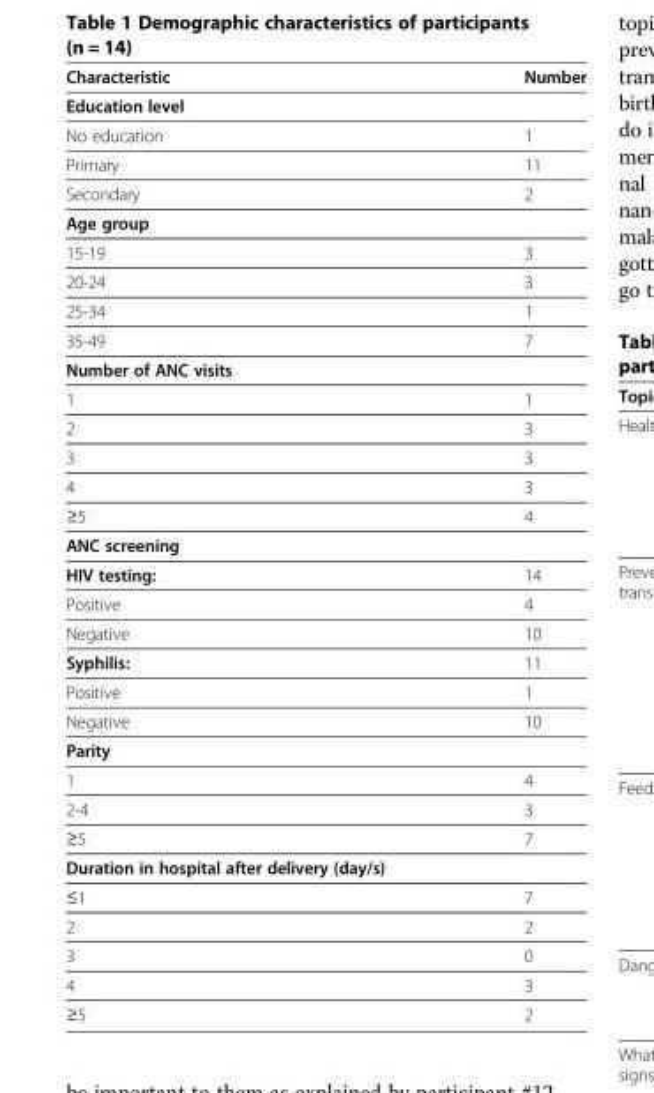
<table><thead><tr><td>Characteristic</td><td>Number</td></tr></thead><tbody><tr><td colspan="2">Education level</td></tr><tr><td>No education</td><td>1</td></tr><tr><td>Primary</td><td>11</td></tr><tr><td>Secondary</td><td>2</td></tr><tr><td colspan="2">Age group</td></tr><tr><td>15-19</td><td>3</td></tr><tr><td>20-24</td><td>3</td></tr><tr><td>25-34</td><td>1</td></tr><tr><td>35-49</td><td>7</td></tr><tr><td colspan="2">Number of ANC visits</td></tr><tr><td>1</td><td>1</td></tr><tr><td>2</td><td>3</td></tr><tr><td>3</td><td>3</td></tr><tr><td>4</td><td>3</td></tr><tr><td>≥5</td><td>4</td></tr><tr><td colspan="2">ANC screening</td></tr><tr><td>HIV testing:</td><td>14</td></tr><tr><td>Positive</td><td>4</td></tr><tr><td>Negative</td><td>10</td></tr><tr><td>Syphilis:</td><td>11</td></tr><tr><td>Positive</td><td>1</td></tr><tr><td>Negative</td><td>10</td></tr><tr><td colspan="2">Parity</td></tr><tr><td>1</td><td>4</td></tr><tr><td>2-4</td><td>3</td></tr><tr><td>≥5</td><td>7</td></tr><tr><td colspan="2">Duration in hospital after delivery (day/s)</td></tr><tr><td>≤1</td><td>7</td></tr><tr><td>2</td><td>2</td></tr><tr><td>3</td><td>0</td></tr><tr><td>4</td><td>3</td></tr><tr><td>≥5</td><td>2</td></tr></tbody></table>